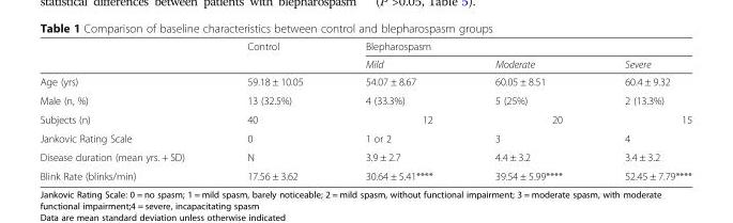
<table><thead><tr><td rowspan="2"></td><td rowspan="2">Control</td><td colspan="3">Blepharospasm</td></tr><tr><td>Mild</td><td>Moderate</td><td>Severe</td></tr></thead><tbody><tr><td>Age (yrs)</td><td>59.18 ± 10.05</td><td>54.07 ± 8.67</td><td>60.05 ± 8.51</td><td>60.4 ± 9.32</td></tr><tr><td>Male (n, %)</td><td>13 (32.5%)</td><td>4 (33.3%)</td><td>5 (25%)</td><td>2 (13.3%)</td></tr><tr><td>Subjects (n)</td><td>40</td><td>12</td><td>20</td><td>15</td></tr><tr><td>Jankovic Rating Scale</td><td>0</td><td>1 or 2</td><td>3</td><td>4</td></tr><tr><td>Disease duration (mean yrs. + SD)</td><td>N</td><td>3.9 ± 2.7</td><td>4.4 ± 3.2</td><td>3.4 ± 3.2</td></tr><tr><td>Blink Rate (blinks/min)</td><td>17.56 ± 3.62</td><td>30.64 ± 5.41****</td><td>39.54 ± 5.99****</td><td>52.45 ± 7.79****</td></tr></tbody></table>